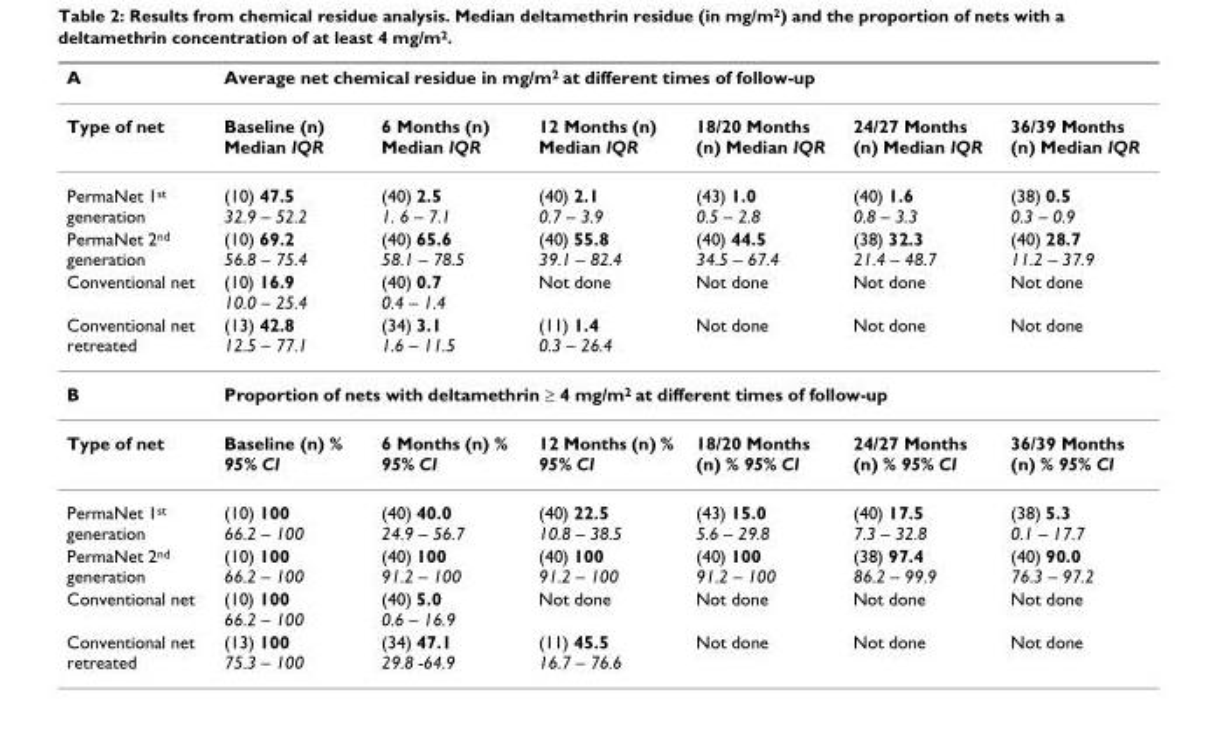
<table><thead><tr><td rowspan="2">A Type of net</td><td colspan="6">Average net chemical residue in mg/m<sup>2</sup> at different times of follow-up</td></tr><tr><td>Baseline (n) Median IQR</td><td>6 Months (n) Median IQR</td><td>12 Months (n) Median IQR</td><td>18/20 Months (n) Median IQR</td><td>24/27 Months (n) Median IQR</td><td>36/39 Months (n) Median IQR</td></tr></thead><tbody><tr><td>PermaNet 1<sup>st</sup> generation</td><td>(10) 47.5 32.9 – 52.2</td><td>(40) 2.5 1. 6 – 7.1</td><td>(40) 2.1 0.7 – 3.9</td><td>(43) 1.0 0.5 – 2.8</td><td>(40) 1.6 0.8 – 3.3</td><td>(38) 0.5 0.3 – 0.9</td></tr><tr><td>PermaNet 2<sup>nd</sup> generation</td><td>(10) 69.2 56.8 – 75.4</td><td>(40) 65.6 58.1 – 78.5</td><td>(40) 55.8 39.1 – 82.4</td><td>(40) 44.5 34.5 – 67.4</td><td>(38) 32.3 21.4 – 48.7</td><td>(40) 28.7 11.2 – 37.9</td></tr><tr><td>Conventional net</td><td>(10) 16.9 10.0 – 25.4</td><td>(40) 0.7 0.4 – 1.4</td><td>Not done</td><td>Not done</td><td>Not done</td><td>Not done</td></tr><tr><td>Conventional net retreated</td><td>(13) 42.8 12.5 – 77.1</td><td>(34) 3.1 1.6 – 11.5</td><td>(11) 1.4 0.3 – 26.4</td><td>Not done</td><td>Not done</td><td>Not done</td></tr><tr><td>B</td><td colspan="6">Proportion of nets with deltamethrin ≥ 4 mg/m<sup>2</sup> at different times of follow-up</td></tr><tr><td>Type of net</td><td>Baseline (n) % 95% CI</td><td>6 Months (n) % 95% CI</td><td>12 Months (n) % 95% CI</td><td>18/20 Months (n) % 95% CI</td><td>24/27 Months (n) % 95% CI</td><td>36/39 Months (n) % 95% CI</td></tr><tr><td>PermaNet 1<sup>st</sup> generation</td><td>(10) 100 66.2 – 100</td><td>(40) 40.0 24.9 – 56.7</td><td>(40) 22.5 10.8 – 38.5</td><td>(43) 15.0 5.6 – 29.8</td><td>(40) 17.5 7.3 – 32.8</td><td>(38) 5.3 0.1 – 17.7</td></tr><tr><td>PermaNet 2<sup>nd</sup> generation</td><td>(10) 100 66.2 – 100</td><td>(40) 100 91.2 – 100</td><td>(40) 100 91.2 – 100</td><td>(40) 100 91.2 – 100</td><td>(38) 97.4 86.2 – 99.9</td><td>(40) 90.0 76.3 – 97.2</td></tr><tr><td>Conventional net</td><td>(10) 100 66.2 – 100</td><td>(40) 5.0 0.6 – 16.9</td><td>Not done</td><td>Not done</td><td>Not done</td><td>Not done</td></tr><tr><td>Conventional net retreated</td><td>(13) 100 75.3 – 100</td><td>(34) 47.1 29.8 -64.9</td><td>(11) 45.5 16.7 – 76.6</td><td>Not done</td><td>Not done</td><td>Not done</td></tr></tbody></table>